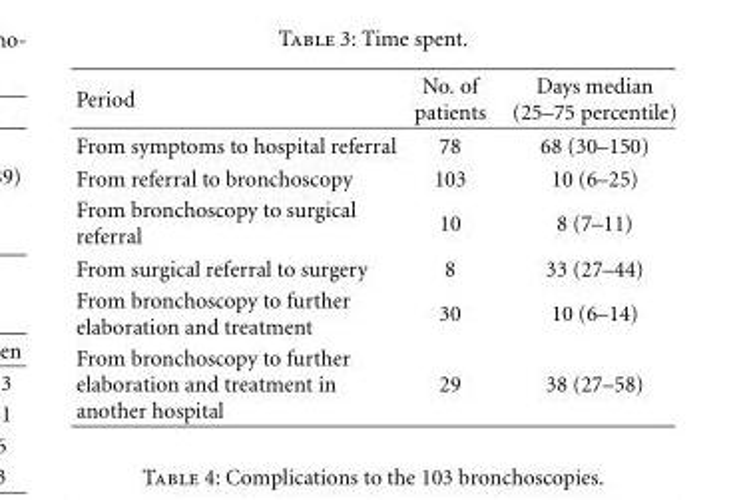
<table><thead><tr><td>Period</td><td>No. of patients</td><td>Days median (25–75 percentile)</td></tr></thead><tbody><tr><td>From symptoms to hospital referral</td><td>78</td><td>68 (30–150)</td></tr><tr><td>From referral to bronchoscopy</td><td>103</td><td>10 (6–25)</td></tr><tr><td>From bronchoscopy to surgical referral</td><td>10</td><td>8 (7–11)</td></tr><tr><td>From surgical referral to surgery</td><td>8</td><td>33 (27–44)</td></tr><tr><td>From bronchoscopy to further elaboration and treatment</td><td>30</td><td>10 (6–14)</td></tr><tr><td>From bronchoscopy to further elaboration and treatment in another hospital</td><td>29</td><td>38 (27–58)</td></tr></tbody></table>